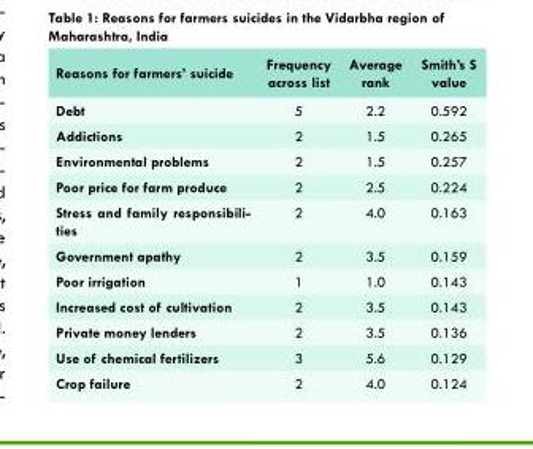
<table><thead><tr><td>Reasons for farmers’ suicide</td><td>Frequency across list</td><td>Average rank</td><td>Smith’s S value</td></tr></thead><tbody><tr><td>Debt</td><td>5</td><td>2.2</td><td>0.592</td></tr><tr><td>Addictions</td><td>2</td><td>1.5</td><td>0.265</td></tr><tr><td>Environmental problems</td><td>2</td><td>1.5</td><td>0.257</td></tr><tr><td>Poor price for farm produce</td><td>2</td><td>2.5</td><td>0.224</td></tr><tr><td>Stress and family responsibili- ties</td><td>2</td><td>4.0</td><td>0.163</td></tr><tr><td>Government apathy</td><td>2</td><td>3.5</td><td>0.159</td></tr><tr><td>Poor irrigation</td><td>1</td><td>1.0</td><td>0.143</td></tr><tr><td>Increased cost of cultivation</td><td>2</td><td>3.5</td><td>0.143</td></tr><tr><td>Private money lenders</td><td>2</td><td>3.5</td><td>0.136</td></tr><tr><td>Use of chemical fertilizers</td><td>3</td><td>5.6</td><td>0.129</td></tr><tr><td>Crop failure</td><td>2</td><td>4.0</td><td>0.124</td></tr></tbody></table>